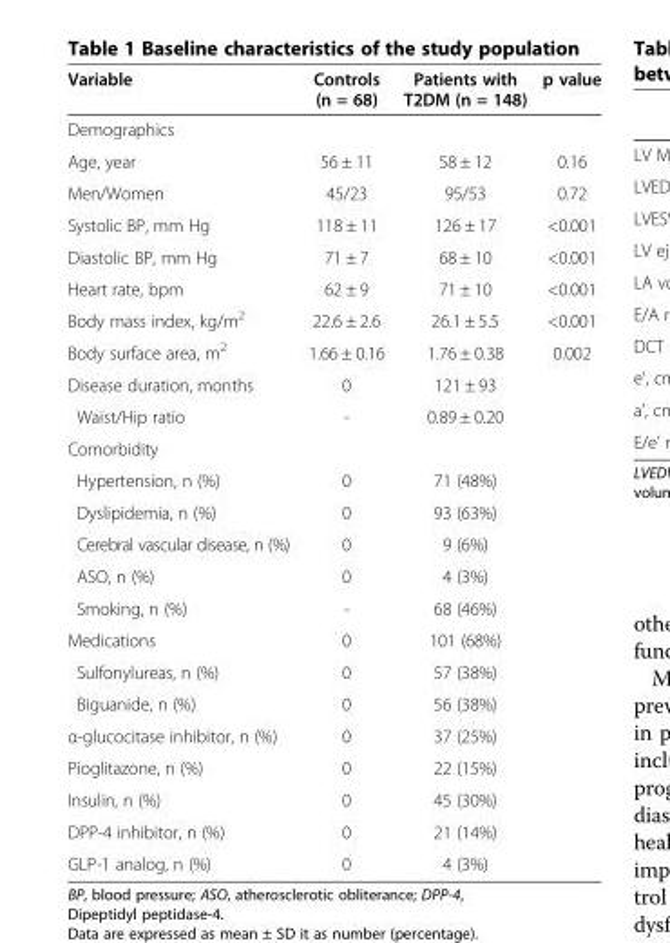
<table><thead><tr><td>Variable</td><td>Controls (n = 68)</td><td>Patients with T2DM (n = 148)</td><td>p value</td></tr></thead><tbody><tr><td colspan="4">Demographics</td></tr><tr><td>Age, year</td><td>56 ± 11</td><td>58 ± 12</td><td>0.16</td></tr><tr><td>Men/Women</td><td>45/23</td><td>95/53</td><td>0.72</td></tr><tr><td>Systolic BP, mm Hg</td><td>118 ± 11</td><td>126 ± 17</td><td>&lt;0.001</td></tr><tr><td>Diastolic BP, mm Hg</td><td>71 ± 7</td><td>68 ± 10</td><td>&lt;0.001</td></tr><tr><td>Heart rate, bpm</td><td>62 ± 9</td><td>71 ± 10</td><td>&lt;0.001</td></tr><tr><td>Body mass index, kg/m<sup>2</sup></td><td>22.6 ± 2.6</td><td>26.1 ± 5.5</td><td>&lt;0.001</td></tr><tr><td>Body surface area, m<sup>2</sup></td><td>1.66 ± 0.16</td><td>1.76 ± 0.38</td><td>0.002</td></tr><tr><td>Disease duration, months</td><td>0</td><td>121 ± 93</td><td></td></tr><tr><td>Waist/Hip ratio</td><td>-</td><td>0.89 ± 0.20</td><td></td></tr><tr><td colspan="4">Comorbidity</td></tr><tr><td>Hypertension, n (%)</td><td>0</td><td>71 (48%)</td><td></td></tr><tr><td>Dyslipidemia, n (%)</td><td>0</td><td>93 (63%)</td><td></td></tr><tr><td>Cerebral vascular disease, n (%)</td><td>0</td><td>9 (6%)</td><td></td></tr><tr><td>ASO, n (%)</td><td>0</td><td>4 (3%)</td><td></td></tr><tr><td>Smoking, n (%)</td><td>-</td><td>68 (46%)</td><td></td></tr><tr><td>Medications</td><td>0</td><td>101 (68%)</td><td></td></tr><tr><td>Sulfonylureas, n (%)</td><td>0</td><td>57 (38%)</td><td></td></tr><tr><td>Biguanide, n (%)</td><td>0</td><td>56 (38%)</td><td></td></tr><tr><td>α-glucocitase inhibitor, n (%)</td><td>0</td><td>37 (25%)</td><td></td></tr><tr><td>Pioglitazone, n (%)</td><td>0</td><td>22 (15%)</td><td></td></tr><tr><td>Insulin, n (%)</td><td>0</td><td>45 (30%)</td><td></td></tr><tr><td>DPP-4 inhibitor, n (%)</td><td>0</td><td>21 (14%)</td><td></td></tr><tr><td>GLP-1 analog, n (%)</td><td>0</td><td>4 (3%)</td><td></td></tr></tbody></table>